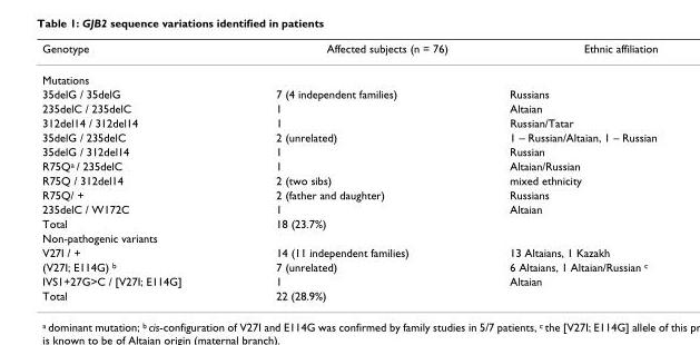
<table><thead><tr><td>Genotype</td><td>Affected subjects (n = 76)</td><td>Ethnic affiliation</td></tr></thead><tbody><tr><td colspan="3">Mutations</td></tr><tr><td>35delG / 35delG</td><td>7 (4 independent families)</td><td>Russians</td></tr><tr><td>235delC / 235delC</td><td>1</td><td>Altaian</td></tr><tr><td>312del14 / 312del14</td><td>1</td><td>Russian/Tatar</td></tr><tr><td>35delG / 235delC</td><td>2 (unrelated)</td><td>1 – Russian/Altaian, 1 – Russian</td></tr><tr><td>35delG / 312del14</td><td>1</td><td>Russian</td></tr><tr><td>R75Qa / 235delC</td><td>1</td><td>Altaian/Russian</td></tr><tr><td>R75Q / 312del14</td><td>2 (two sibs)</td><td>mixed ethnicity</td></tr><tr><td>R75Q/ +</td><td>2 (father and daughter)</td><td>Russians</td></tr><tr><td>235delC / W172C</td><td>1</td><td>Altaian</td></tr><tr><td>Total</td><td colspan="2">18 (23.7%)</td></tr><tr><td colspan="3">Non-pathogenic variants</td></tr><tr><td>V27I / +</td><td>14 (11 independent families)</td><td>13 Altaians, 1 Kazakh</td></tr><tr><td>(V27I; E114G) b</td><td>7 (unrelated)</td><td>6 Altaians, 1 Altaian/Russian c</td></tr><tr><td>IVS1+27G&gt;C / [V27I; E114G]</td><td>1</td><td>Altaian</td></tr><tr><td>Total</td><td colspan="2">22 (28.9%)</td></tr></tbody></table>